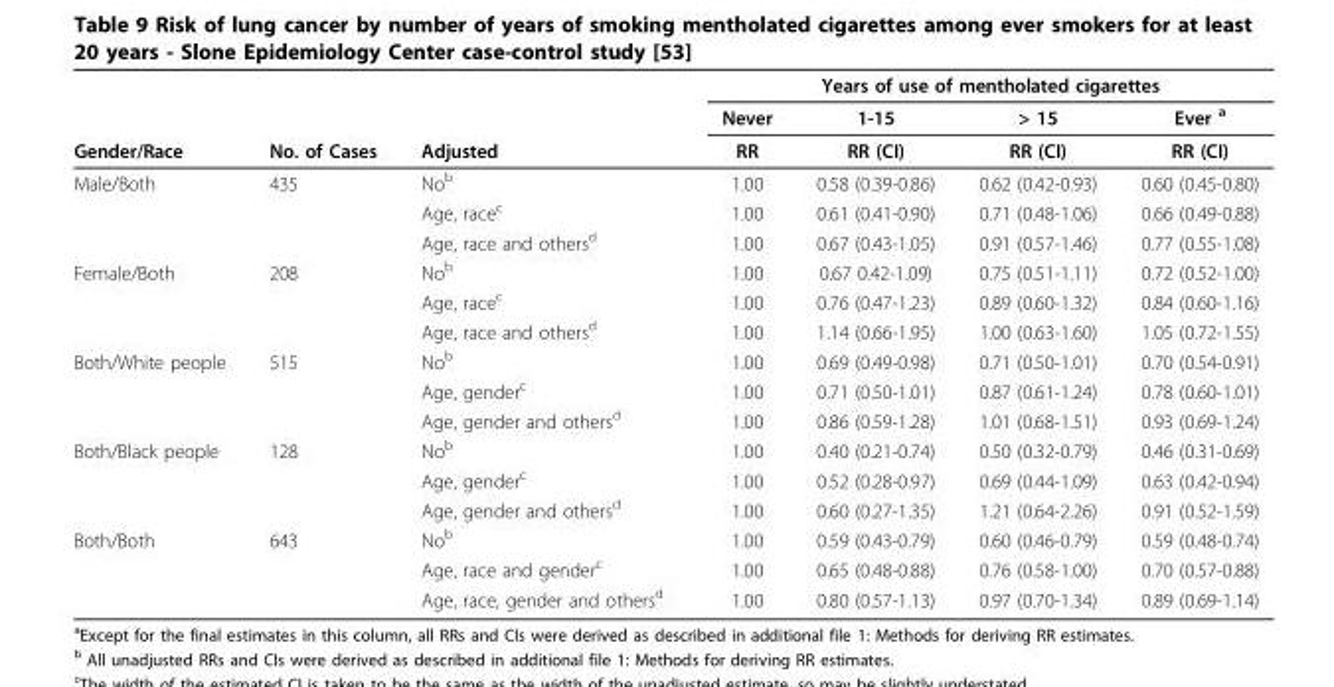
<table><thead><tr><td rowspan="3">Gender/Race</td><td rowspan="3">No. of Cases</td><td rowspan="3">Adjusted</td><td colspan="4">Years of use of mentholated cigarettes</td></tr><tr><td rowspan="2">Never RR</td><td rowspan="2">1-15 RR (CI)</td><td rowspan="2">&gt; 15 RR (CI)</td><td rowspan="2">Ever <sup>a</sup> RR (CI)</td></tr><tr></tr></thead><tbody><tr><td rowspan="3">Male/Both</td><td>435</td><td>No<sup>b</sup></td><td>1.00</td><td>0.58 (0.39-0.86)</td><td>0.62 (0.42-0.93)</td><td>0.60 (0.45-0.80)</td></tr><tr><td></td><td>Age, race<sup>c</sup></td><td>1.00</td><td>0.61 (0.41-0.90)</td><td>0.71 (0.48-1.06)</td><td>0.66 (0.49-0.88)</td></tr><tr><td></td><td>Age, race and others<sup>d</sup></td><td>1.00</td><td>0.67 (0.43-1.05)</td><td>0.91 (0.57-1.46)</td><td>0.77 (0.55-1.08)</td></tr><tr><td rowspan="3">Female/Both</td><td>208</td><td>No<sup>b</sup></td><td>1.00</td><td>0.67 0.42-1.09)</td><td>0.75 (0.51-1.11)</td><td>0.72 (0.52-1.00)</td></tr><tr><td></td><td>Age, race<sup>c</sup></td><td>1.00</td><td>0.76 (0.47-1.23)</td><td>0.89 (0.60-1.32)</td><td>0.84 (0.60-1.16)</td></tr><tr><td></td><td>Age, race and others<sup>d</sup></td><td>1.00</td><td>1.14 (0.66-1.95)</td><td>1.00 (0.63-1.60)</td><td>1.05 (0.72-1.55)</td></tr><tr><td rowspan="3">Both/White people</td><td>515</td><td>No<sup>b</sup></td><td>1.00</td><td>0.69 (0.49-0.98)</td><td>0.71 (0.50-1.01)</td><td>0.70 (0.54-0.91)</td></tr><tr><td></td><td>Age, gender<sup>c</sup></td><td>1.00</td><td>0.71 (0.50-1.01)</td><td>0.87 (0.61-1.24)</td><td>0.78 (0.60-1.01)</td></tr><tr><td></td><td>Age, gender and others<sup>d</sup></td><td>1.00</td><td>0.86 (0.59-1.28)</td><td>1.01 (0.68-1.51)</td><td>0.93 (0.69-1.24)</td></tr><tr><td rowspan="3">Both/Black people</td><td>128</td><td>No<sup>b</sup></td><td>1.00</td><td>0.40 (0.21-0.74)</td><td>0.50 (0.32-0.79)</td><td>0.46 (0.31-0.69)</td></tr><tr><td></td><td>Age, gender<sup>c</sup></td><td>1.00</td><td>0.52 (0.28-0.97)</td><td>0.69 (0.44-1.09)</td><td>0.63 (0.42-0.94)</td></tr><tr><td></td><td>Age, gender and others<sup>d</sup></td><td>1.00</td><td>0.60 (0.27-1.35)</td><td>1.21 (0.64-2.26)</td><td>0.91 (0.52-1.59)</td></tr><tr><td rowspan="3">Both/Both</td><td>643</td><td>No<sup>b</sup></td><td>1.00</td><td>0.59 (0.43-0.79)</td><td>0.60 (0.46-0.79)</td><td>0.59 (0.48-0.74)</td></tr><tr><td></td><td>Age, race and gender<sup>c</sup></td><td>1.00</td><td>0.65 (0.48-0.88)</td><td>0.76 (0.58-1.00)</td><td>0.70 (0.57-0.88)</td></tr><tr><td></td><td>Age, race, gender and others<sup>d</sup></td><td>1.00</td><td>0.80 (0.57-1.13)</td><td>0.97 (0.70-1.34)</td><td>0.89 (0.69-1.14)</td></tr></tbody></table>